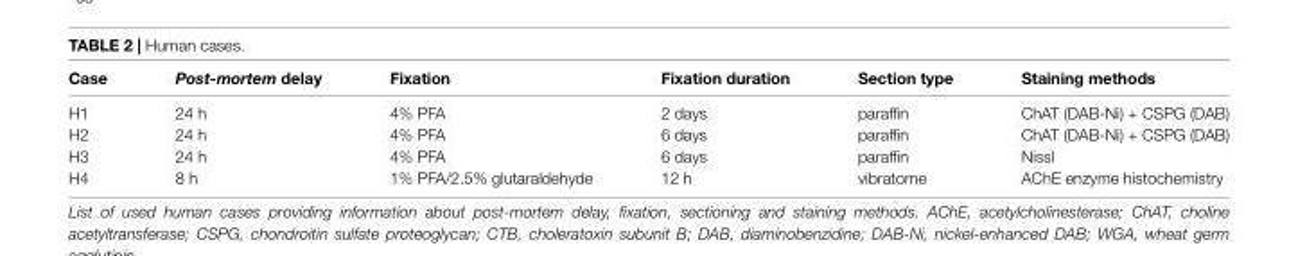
<table><thead><tr><td>Case</td><td>Post-mortem delay</td><td>Fixation</td><td>Fixation duration</td><td>Section type</td><td>Staining methods</td></tr></thead><tbody><tr><td>H1</td><td>24 h</td><td>4% PFA</td><td>2 days</td><td>paraffin</td><td>ChAT (DAB-Ni) + CSPG (DAB)</td></tr><tr><td>H2</td><td>24 h</td><td>4% PFA</td><td>6 days</td><td>paraffin</td><td>ChAT (DAB-Ni) + CSPG (DAB)</td></tr><tr><td>H3</td><td>24 h</td><td>4% PFA</td><td>6 days</td><td>paraffin</td><td>Nissl</td></tr><tr><td>H4</td><td>8 h</td><td>1% PFA/2.5% glutaraldehyde</td><td>12 h</td><td>vibratome</td><td>AChE enzyme histochemistry</td></tr></tbody></table>